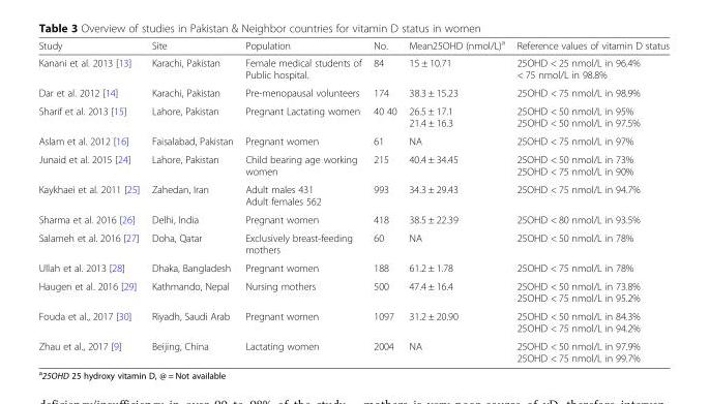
<table><thead><tr><td>Study</td><td>Site</td><td>Population</td><td>No.</td><td>Mean25OHD (nmol/L)<sup>a</sup></td><td>Reference values of vitamin D status</td></tr></thead><tbody><tr><td>Kanani et al. 2013 [13]</td><td>Karachi, Pakistan</td><td>Female medical students of Public hospital.</td><td>84</td><td>15 ± 10.71</td><td>25OHD &lt; 25 nmol/L in 96.4% &lt; 75 nmol/L in 98.8%</td></tr><tr><td>Dar et al. 2012 [14]</td><td>Karachi, Pakistan</td><td>Pre-menopausal volunteers</td><td>174</td><td>38.3 ± 15.23</td><td>25OHD &lt; 75 nmol/L in 98.9%</td></tr><tr><td>Sharif et al. 2013 [15]</td><td>Lahore, Pakistan</td><td>Pregnant Lactating women</td><td>40 40</td><td>26.5 ± 17.1 21.4 ± 16.3</td><td>25OHD &lt; 50 nmol/L in 95% 25OHD &lt; 50 nmol/L in 97.5%</td></tr><tr><td>Aslam et al. 2012 [16]</td><td>Faisalabad, Pakistan</td><td>Pregnant women</td><td>61</td><td>NA</td><td>25OHD &lt; 75 nmol/L in 97%</td></tr><tr><td>Junaid et al. 2015 [24]</td><td>Lahore, Pakistan</td><td>Child bearing age working women</td><td>215</td><td>40.4 ± 34.45</td><td>25OHD &lt; 50 nmol/L in 73% 25OHD &lt; 75 nmol/L in 90%</td></tr><tr><td>Kaykhaei et al. 2011 [25]</td><td>Zahedan, Iran</td><td>Adult males 431 Adult females 562</td><td>993</td><td>34.3 ± 29.43</td><td>25OHD &lt; 75 nmol/L in 94.7%</td></tr><tr><td>Sharma et al. 2016 [26]</td><td>Delhi, India</td><td>Pregnant women</td><td>418</td><td>38.5 ± 22.39</td><td>25OHD &lt; 80 nmol/L in 93.5%</td></tr><tr><td>Salameh et al. 2016 [27]</td><td>Doha, Qatar</td><td>Exclusively breast-feeding mothers</td><td>60</td><td>NA</td><td>25OHD &lt; 50 nmol/L in 78%</td></tr><tr><td>Ullah et al. 2013 [28]</td><td>Dhaka, Bangladesh</td><td>Pregnant women</td><td>188</td><td>61.2 ± 1.78</td><td>25OHD &lt; 75 nmol/L in 78%</td></tr><tr><td>Haugen et al. 2016 [29]</td><td>Kathmando, Nepal</td><td>Nursing mothers</td><td>500</td><td>47.4 ± 16.4</td><td>25OHD &lt; 50 nmol/L in 73.8% 25OHD &lt; 75 nmol/L in 95.2%</td></tr><tr><td>Fouda et al., 2017 [30]</td><td>Riyadh, Saudi Arab</td><td>Pregnant women</td><td>1097</td><td>31.2 ± 20.90</td><td>25OHD &lt; 50 nmol/L in 84.3% 25OHD &lt; 75 nmol/L in 94.2%</td></tr><tr><td>Zhau et al., 2017 [9]</td><td>Beijing, China</td><td>Lactating women</td><td>2004</td><td>NA</td><td>25OHD &lt; 50 nmol/L in 97.9% 25OHD &lt; 75 nmol/L in 99.7%</td></tr></tbody></table>